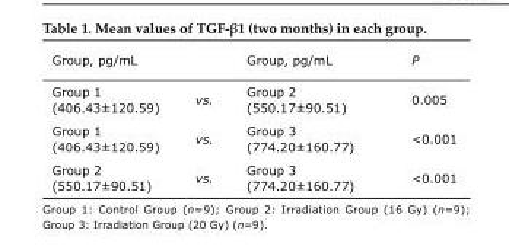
<table><thead><tr><td>Group, pg/mL</td><td></td><td>Group, pg/mL</td><td>P</td></tr></thead><tbody><tr><td>Group 1 (406.43±120.59)</td><td>vs.</td><td>Group 2 (550.17±90.51)</td><td>0.005</td></tr><tr><td>Group 1 (406.43±120.59)</td><td>vs.</td><td>Group 3 (774.20±160.77)</td><td>&lt;0.001</td></tr><tr><td>Group 2 (550.17±90.51)</td><td>vs.</td><td>Group 3 (774.20±160.77)</td><td>&lt;0.001</td></tr></tbody></table>